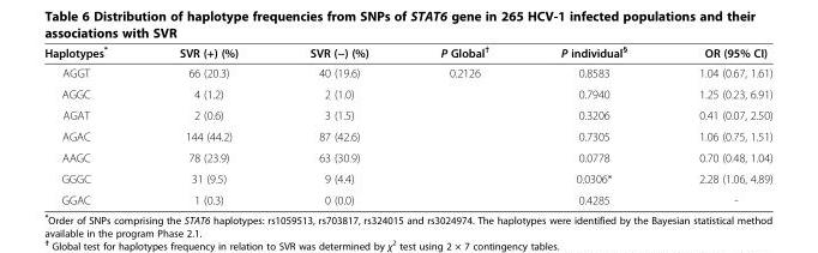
<table><thead><tr><td>Haplotypes*</td><td>SVR (+) (%)</td><td>SVR (−) (%)</td><td>P Global<sup>†</sup></td><td>P individual<sup>§</sup></td><td>OR (95% CI)</td></tr></thead><tbody><tr><td>AGGT</td><td>66 (20.3)</td><td>40 (19.6)</td><td rowspan="5">0.2126</td><td>0.8583</td><td>1.04 (0.67, 1.61)</td></tr><tr><td>AGGC</td><td>4 (1.2)</td><td>2 (1.0)</td><td>0.7940</td><td>1.25 (0.23, 6.91)</td></tr><tr><td>AGAT</td><td>2 (0.6)</td><td>3 (1.5)</td><td>0.3206</td><td>0.41 (0.07, 2.50)</td></tr><tr><td>AGAC</td><td>144 (44.2)</td><td>87 (42.6)</td><td>0.7305</td><td>1.06 (0.75, 1.51)</td></tr><tr><td>AAGC</td><td>78 (23.9)</td><td>63 (30.9)</td><td>0.0778</td><td>0.70 (0.48, 1.04)</td></tr><tr><td>GGGC</td><td>31 (9.5)</td><td>9 (4.4)</td><td></td><td>0.0306*</td><td>2.28 (1.06, 4.89)</td></tr><tr><td>GGAC</td><td>1 (0.3)</td><td>0 (0.0)</td><td></td><td>0.4285</td><td>-</td></tr></tbody></table>